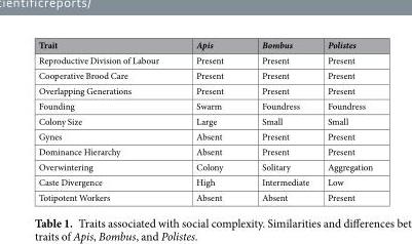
<table><thead><tr><td>Trait</td><td>Apis</td><td>Bombus</td><td>Polistes</td></tr></thead><tbody><tr><td>Reproductive Division of Labour</td><td>Present</td><td>Present</td><td>Present</td></tr><tr><td>Cooperative Brood Care</td><td>Present</td><td>Present</td><td>Present</td></tr><tr><td>Overlapping Generations</td><td>Present</td><td>Present</td><td>Present</td></tr><tr><td>Founding</td><td>Swarm</td><td>Foundress</td><td>Foundress</td></tr><tr><td>Colony Size</td><td>Large</td><td>Small</td><td>Small</td></tr><tr><td>Gynes</td><td>Absent</td><td>Present</td><td>Present</td></tr><tr><td>Dominance Hierarchy</td><td>Absent</td><td>Present</td><td>Present</td></tr><tr><td>Overwintering</td><td>Colony</td><td>Solitary</td><td>Aggregation</td></tr><tr><td>Caste Divergence</td><td>High</td><td>Intermediate</td><td>Low</td></tr><tr><td>Totipotent Workers</td><td>Absent</td><td>Absent</td><td>Present</td></tr></tbody></table>